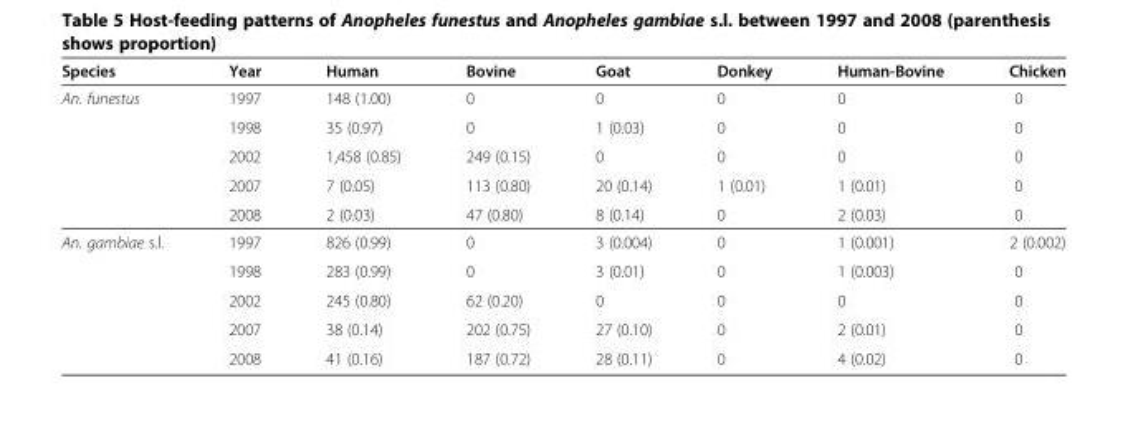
<table><thead><tr><td>Species</td><td>Year</td><td>Human</td><td>Bovine</td><td>Goat</td><td>Donkey</td><td>Human-Bovine</td><td>Chicken</td></tr></thead><tbody><tr><td rowspan="5">An. funestus</td><td>1997</td><td>148 (1.00)</td><td>0</td><td>0</td><td>0</td><td>0</td><td>0</td></tr><tr><td>1998</td><td>35 (0.97)</td><td>0</td><td>1 (0.03)</td><td>0</td><td>0</td><td>0</td></tr><tr><td>2002</td><td>1,458 (0.85)</td><td>249 (0.15)</td><td>0</td><td>0</td><td>0</td><td>0</td></tr><tr><td>2007</td><td>7 (0.05)</td><td>113 (0.80)</td><td>20 (0.14)</td><td>1 (0.01)</td><td>1 (0.01)</td><td>0</td></tr><tr><td>2008</td><td>2 (0.03)</td><td>47 (0.80)</td><td>8 (0.14)</td><td>0</td><td>2 (0.03)</td><td>0</td></tr><tr><td rowspan="5">An. gambiae s.l.</td><td>1997</td><td>826 (0.99)</td><td>0</td><td>3 (0.004)</td><td>0</td><td>1 (0.001)</td><td>2 (0.002)</td></tr><tr><td>1998</td><td>283 (0.99)</td><td>0</td><td>3 (0.01)</td><td>0</td><td>1 (0.003)</td><td>0</td></tr><tr><td>2002</td><td>245 (0.80)</td><td>62 (0.20)</td><td>0</td><td>0</td><td>0</td><td>0</td></tr><tr><td>2007</td><td>38 (0.14)</td><td>202 (0.75)</td><td>27 (0.10)</td><td>0</td><td>2 (0.01)</td><td>0</td></tr><tr><td>2008</td><td>41 (0.16)</td><td>187 (0.72)</td><td>28 (0.11)</td><td>0</td><td>4 (0.02)</td><td>0</td></tr></tbody></table>